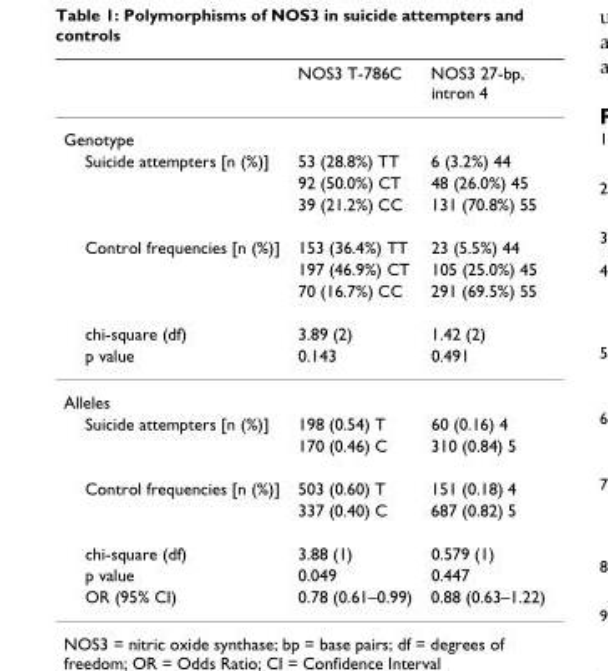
<table><thead><tr><td></td><td>NOS3 T-786C</td><td>NOS3 27-bp, intron 4</td></tr></thead><tbody><tr><td colspan="3">Genotype</td></tr><tr><td rowspan="3">Suicide attempters [n (%)]</td><td>53 (28.8%) TT</td><td>6 (3.2%) 44</td></tr><tr><td>92 (50.0%) CT</td><td>48 (26.0%) 45</td></tr><tr><td>39 (21.2%) CC</td><td>131 (70.8%) 55</td></tr><tr><td rowspan="3">Control frequencies [n (%)]</td><td>153 (36.4%) TT</td><td>23 (5.5%) 44</td></tr><tr><td>197 (46.9%) CT</td><td>105 (25.0%) 45</td></tr><tr><td>70 (16.7%) CC</td><td>291 (69.5%) 55</td></tr><tr><td>chi-square (df)</td><td>3.89 (2)</td><td>1.42 (2)</td></tr><tr><td>p value</td><td>0.143</td><td>0.491</td></tr><tr><td colspan="3">Alleles</td></tr><tr><td rowspan="2">Suicide attempters [n (%)]</td><td>198 (0.54) T</td><td>60 (0.16) 4</td></tr><tr><td>170 (0.46) C</td><td>310 (0.84) 5</td></tr><tr><td rowspan="2">Control frequencies [n (%)]</td><td>503 (0.60) T</td><td>151 (0.18) 4</td></tr><tr><td>337 (0.40) C</td><td>687 (0.82) 5</td></tr><tr><td>chi-square (df)</td><td>3.88 (1)</td><td>0.579 (1)</td></tr><tr><td>p value</td><td>0.049</td><td>0.447</td></tr><tr><td>OR (95% CI)</td><td>0.78 (0.61–0.99)</td><td>0.88 (0.63–1.22)</td></tr></tbody></table>